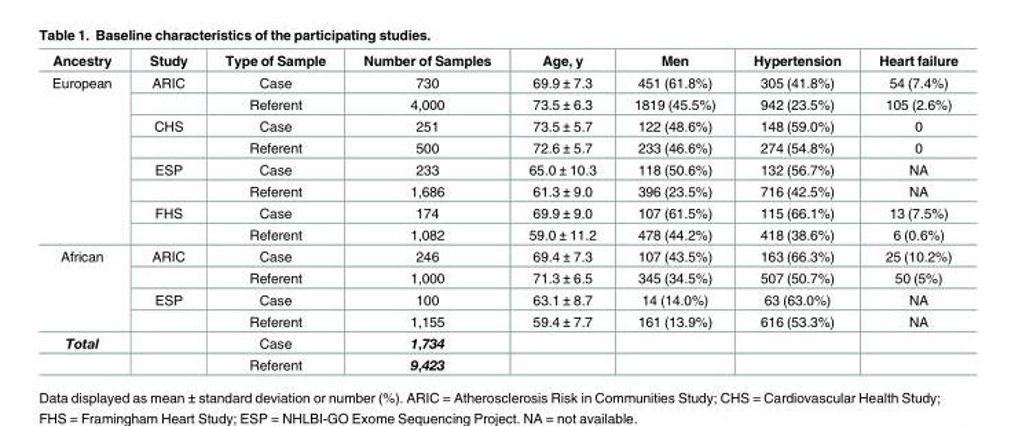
<table><thead><tr><td>Ancestry</td><td>Study</td><td>Type of Sample</td><td>Number of Samples</td><td>Age, y</td><td>Men</td><td>Hypertension</td><td>Heart failure</td></tr></thead><tbody><tr><td rowspan="8">European</td><td>ARIC</td><td>Case</td><td>730</td><td>69.9 ± 7.3</td><td>451 (61.8%)</td><td>305 (41.8%)</td><td>54 (7.4%)</td></tr><tr><td></td><td>Referent</td><td>4,000</td><td>73.5 ± 6.3</td><td>1819 (45.5%)</td><td>942 (23.5%)</td><td>105 (2.6%)</td></tr><tr><td>CHS</td><td>Case</td><td>251</td><td>73.5 ± 5.7</td><td>122 (48.6%)</td><td>148 (59.0%)</td><td>0</td></tr><tr><td></td><td>Referent</td><td>500</td><td>72.6 ± 5.7</td><td>233 (46.6%)</td><td>274 (54.8%)</td><td>0</td></tr><tr><td>ESP</td><td>Case</td><td>233</td><td>65.0 ± 10.3</td><td>118 (50.6%)</td><td>132 (56.7%)</td><td>NA</td></tr><tr><td></td><td>Referent</td><td>1,686</td><td>61.3 ± 9.0</td><td>396 (23.5%)</td><td>716 (42.5%)</td><td>NA</td></tr><tr><td>FHS</td><td>Case</td><td>174</td><td>69.9 ± 9.0</td><td>107 (61.5%)</td><td>115 (66.1%)</td><td>13 (7.5%)</td></tr><tr><td></td><td>Referent</td><td>1,082</td><td>59.0 ± 11.2</td><td>478 (44.2%)</td><td>418 (38.6%)</td><td>6 (0.6%)</td></tr><tr><td rowspan="4">African</td><td>ARIC</td><td>Case</td><td>246</td><td>69.4 ± 7.3</td><td>107 (43.5%)</td><td>163 (66.3%)</td><td>25 (10.2%)</td></tr><tr><td></td><td>Referent</td><td>1,000</td><td>71.3 ± 6.5</td><td>345 (34.5%)</td><td>507 (50.7%)</td><td>50 (5%)</td></tr><tr><td>ESP</td><td>Case</td><td>100</td><td>63.1 ± 8.7</td><td>14 (14.0%)</td><td>63 (63.0%)</td><td>NA</td></tr><tr><td></td><td>Referent</td><td>1,155</td><td>59.4 ± 7.7</td><td>161 (13.9%)</td><td>616 (53.3%)</td><td>NA</td></tr><tr><td rowspan="2">Total</td><td></td><td>Case</td><td>1,734</td><td></td><td></td><td></td><td></td></tr><tr><td></td><td>Referent</td><td>9,423</td><td></td><td></td><td></td><td></td></tr></tbody></table>